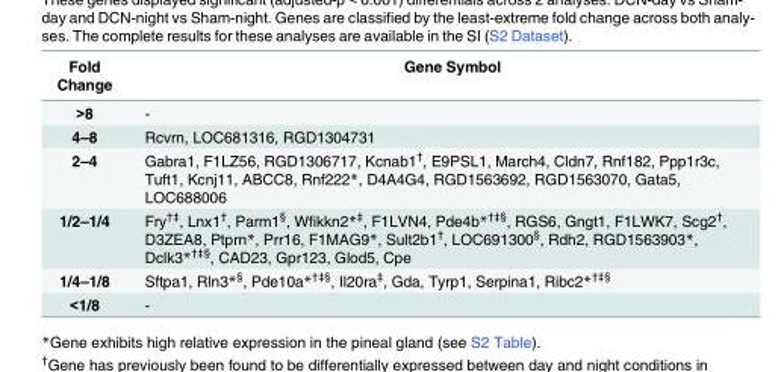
<table><thead><tr><td>Fold Change</td><td>Gene Symbol</td></tr></thead><tbody><tr><td>&gt;8</td><td>-</td></tr><tr><td>4–8</td><td>Rcvrn, LOC681316, RGD1304731</td></tr><tr><td>2–4</td><td>Gabra1, F1LZ56, RGD1306717, Kcnab1<sup>†</sup>, E9PSL1, March4, Cldn7, Rnf182, Ppp1r3c, Tuft1, Kcnj11, ABCC8, Rnf222*, D4A4G4, RGD1563692, RGD1563070, Gata5, LOC688006</td></tr><tr><td>1/2–1/4</td><td>Fry<sup>†‡</sup>, Lnx1<sup>†</sup>, Parm1<sup>§</sup>, Wfikkn2*<sup>‡</sup>, F1LVN4, Pde4b*<sup>†‡§</sup>, RGS6, Gngt1, F1LWK7, Scg2<sup>†</sup>, D3ZEA8, Ptprn*, Prr16, F1MAG9*, Sult2b1<sup>†</sup>, LOC691300<sup>§</sup>, Rdh2, RGD1563903*, Dclk3*<sup>†‡§</sup>, CAD23, Gpr123, Glod5, Cpe</td></tr><tr><td>1/4–1/8</td><td>Sftpa1, Rln3*<sup>§</sup>, Pde10a*<sup>†‡§</sup>, Il20ra<sup>‡</sup>, Gda, Tyrp1, Serpina1, Ribc2*<sup>†‡§</sup></td></tr><tr><td>&lt;1/8</td><td>-</td></tr></tbody></table>